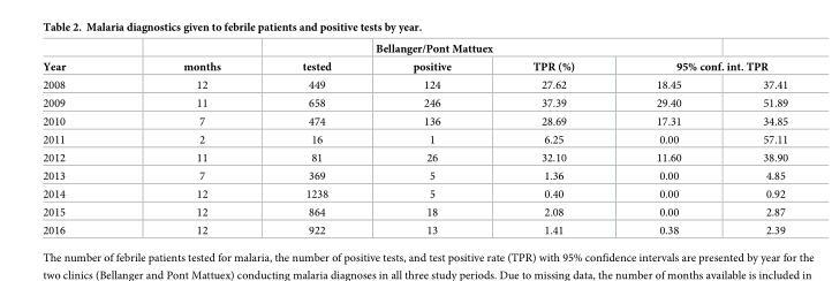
<table><thead><tr><td rowspan="3">Year 2008</td><td rowspan="3">months 12</td><td rowspan="3">tested 449</td><td colspan="3">Bellanger/Pont Mattuex</td><td></td></tr><tr><td rowspan="2">positive 124</td><td rowspan="2">TPR (%) 27.62</td><td colspan="2">95% conf. int. TPR</td></tr><tr><td>18.45</td><td>37.41</td></tr></thead><tbody><tr><td>2009</td><td>11</td><td>658</td><td>246</td><td>37.39</td><td>29.40</td><td>51.89</td></tr><tr><td>2010</td><td>7</td><td>474</td><td>136</td><td>28.69</td><td>17.31</td><td>34.85</td></tr><tr><td>2011</td><td>2</td><td>16</td><td>1</td><td>6.25</td><td>0.00</td><td>57.11</td></tr><tr><td>2012</td><td>11</td><td>81</td><td>26</td><td>32.10</td><td>11.60</td><td>38.90</td></tr><tr><td>2013</td><td>7</td><td>369</td><td>5</td><td>1.36</td><td>0.00</td><td>4.85</td></tr><tr><td>2014</td><td>12</td><td>1238</td><td>5</td><td>0.40</td><td>0.00</td><td>0.92</td></tr><tr><td>2015</td><td>12</td><td>864</td><td>18</td><td>2.08</td><td>0.00</td><td>2.87</td></tr><tr><td>2016</td><td>12</td><td>922</td><td>13</td><td>1.41</td><td>0.38</td><td>2.39</td></tr></tbody></table>